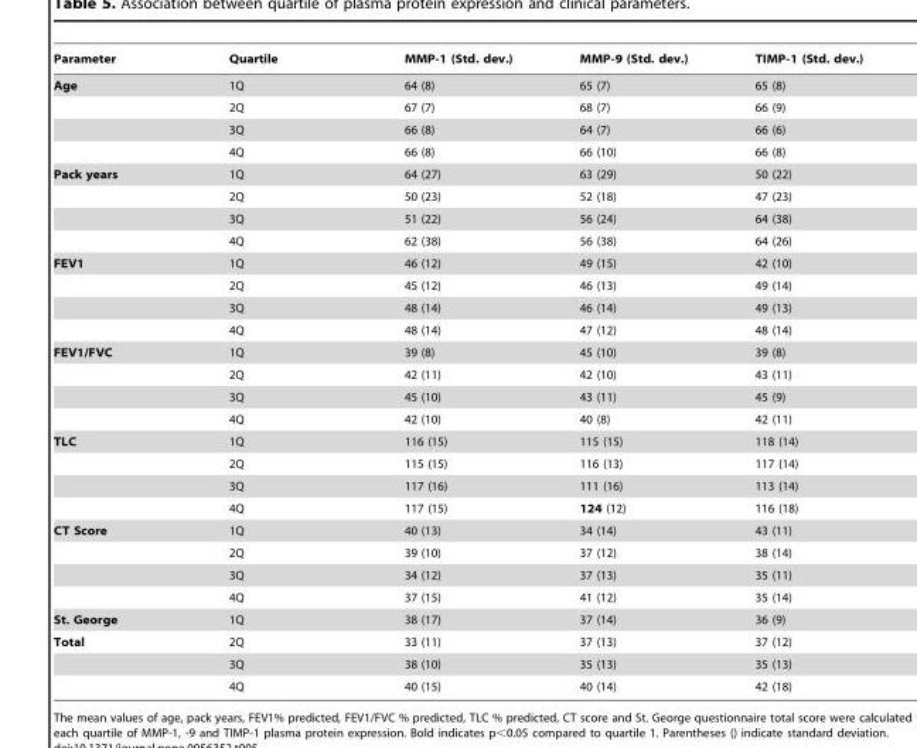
<table><thead><tr><td>Parameter</td><td>Quartile</td><td>MMP-1 (Std. dev.)</td><td>MMP-9 (Std. dev.)</td><td>TIMP-1 (Std. dev.)</td></tr></thead><tbody><tr><td rowspan="4">Age</td><td>1Q</td><td>64 (8)</td><td>65 (7)</td><td>65 (8)</td></tr><tr><td>2Q</td><td>67 (7)</td><td>68 (7)</td><td>66 (9)</td></tr><tr><td>3Q</td><td>66 (8)</td><td>64 (7)</td><td>66 (6)</td></tr><tr><td>4Q</td><td>66 (8)</td><td>66 (10)</td><td>66 (8)</td></tr><tr><td rowspan="4">Pack years</td><td>1Q</td><td>64 (27)</td><td>63 (29)</td><td>50 (22)</td></tr><tr><td>2Q</td><td>50 (23)</td><td>52 (18)</td><td>47 (23)</td></tr><tr><td>3Q</td><td>51 (22)</td><td>56 (24)</td><td>64 (38)</td></tr><tr><td>4Q</td><td>62 (38)</td><td>56 (38)</td><td>64 (26)</td></tr><tr><td rowspan="4">FEV1</td><td>1Q</td><td>46 (12)</td><td>49 (15)</td><td>42 (10)</td></tr><tr><td>2Q</td><td>45 (12)</td><td>46 (13)</td><td>49 (14)</td></tr><tr><td>3Q</td><td>48 (14)</td><td>46 (14)</td><td>49 (13)</td></tr><tr><td>4Q</td><td>48 (14)</td><td>47 (12)</td><td>48 (14)</td></tr><tr><td rowspan="4">FEV1/FVC</td><td>1Q</td><td>39 (8)</td><td>45 (10)</td><td>39 (8)</td></tr><tr><td>2Q</td><td>42 (11)</td><td>42 (10)</td><td>43 (11)</td></tr><tr><td>3Q</td><td>45 (10)</td><td>43 (11)</td><td>45 (9)</td></tr><tr><td>4Q</td><td>42 (10)</td><td>40 (8)</td><td>42 (11)</td></tr><tr><td rowspan="4">TLC</td><td>1Q</td><td>116 (15)</td><td>115 (15)</td><td>118 (14)</td></tr><tr><td>2Q</td><td>115 (15)</td><td>116 (13)</td><td>117 (14)</td></tr><tr><td>3Q</td><td>117 (16)</td><td>111 (16)</td><td>113 (14)</td></tr><tr><td>4Q</td><td>117 (15)</td><td>124 (12)</td><td>116 (18)</td></tr><tr><td rowspan="4">CT Score</td><td>1Q</td><td>40 (13)</td><td>34 (14)</td><td>43 (11)</td></tr><tr><td>2Q</td><td>39 (10)</td><td>37 (12)</td><td>38 (14)</td></tr><tr><td>3Q</td><td>34 (12)</td><td>37 (13)</td><td>35 (11)</td></tr><tr><td>4Q</td><td>37 (15)</td><td>41 (12)</td><td>35 (14)</td></tr><tr><td>St. George</td><td>1Q</td><td>38 (17)</td><td>37 (14)</td><td>36 (9)</td></tr><tr><td rowspan="3">Total</td><td>2Q</td><td>33 (11)</td><td>37 (13)</td><td>37 (12)</td></tr><tr><td>3Q</td><td>38 (10)</td><td>35 (13)</td><td>35 (13)</td></tr><tr><td>4Q</td><td>40 (15)</td><td>40 (14)</td><td>42 (18)</td></tr></tbody></table>